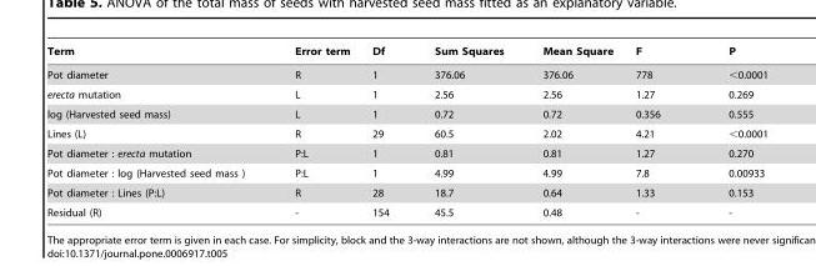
<table><thead><tr><td>Term</td><td>Error term</td><td>Df</td><td>Sum Squares</td><td>Mean Square</td><td>F</td><td>P</td></tr></thead><tbody><tr><td>Pot diameter</td><td>R</td><td>1</td><td>376.06</td><td>376.06</td><td>778</td><td>&lt;0.0001</td></tr><tr><td>erecta mutation</td><td>L</td><td>1</td><td>2.56</td><td>2.56</td><td>1.27</td><td>0.269</td></tr><tr><td>log (Harvested seed mass)</td><td>L</td><td>1</td><td>0.72</td><td>0.72</td><td>0.356</td><td>0.555</td></tr><tr><td>Lines (L)</td><td>R</td><td>29</td><td>60.5</td><td>2.02</td><td>4.21</td><td>&lt;0.0001</td></tr><tr><td>Pot diameter : erecta mutation</td><td>P:L</td><td>1</td><td>0.81</td><td>0.81</td><td>1.27</td><td>0.270</td></tr><tr><td>Pot diameter : log (Harvested seed mass )</td><td>P:L</td><td>1</td><td>4.99</td><td>4.99</td><td>7.8</td><td>0.00933</td></tr><tr><td>Pot diameter : Lines (P:L)</td><td>R</td><td>28</td><td>18.7</td><td>0.64</td><td>1.33</td><td>0.153</td></tr><tr><td>Residual (R)</td><td>-</td><td>154</td><td>45.5</td><td>0.48</td><td>-</td><td>-</td></tr></tbody></table>